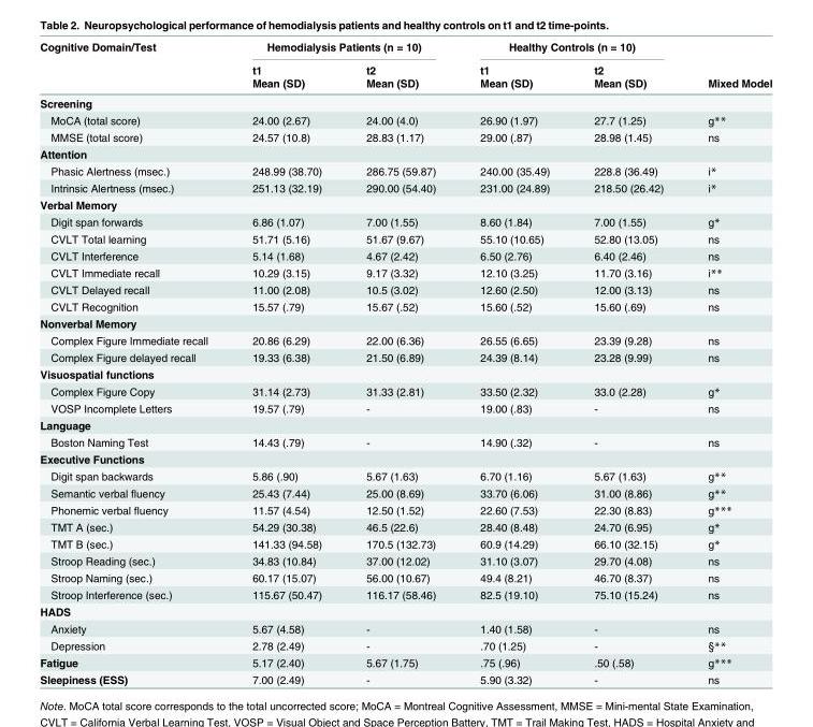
<table><thead><tr><td rowspan="3">Cognitive Domain/Test</td><td colspan="2">Hemodialysis Patients (n = 10)</td><td colspan="2">Healthy Controls (n = 10)</td><td rowspan="3">Mixed Model</td></tr><tr><td rowspan="2">t1 Mean (SD)</td><td rowspan="2">t2 Mean (SD)</td><td rowspan="2">t1 Mean (SD)</td><td rowspan="2">t2 Mean (SD)</td></tr><tr></tr></thead><tbody><tr><td colspan="6">Screening</td></tr><tr><td>MoCA (total score)</td><td>24.00 (2.67)</td><td>24.00 (4.0)</td><td>26.90 (1.97)</td><td>27.7 (1.25)</td><td>g**</td></tr><tr><td>MMSE (total score)</td><td>24.57 (10.8)</td><td>28.83 (1.17)</td><td>29.00 (.87)</td><td>28.98 (1.45)</td><td>ns</td></tr><tr><td colspan="6">Attention</td></tr><tr><td>Phasic Alertness (msec.)</td><td>248.99 (38.70)</td><td>286.75 (59.87)</td><td>240.00 (35.49)</td><td>228.8 (36.49)</td><td>i*</td></tr><tr><td>Intrinsic Alertness (msec.)</td><td>251.13 (32.19)</td><td>290.00 (54.40)</td><td>231.00 (24.89)</td><td>218.50 (26.42)</td><td>i*</td></tr><tr><td colspan="6">Verbal Memory</td></tr><tr><td>Digit span forwards</td><td>6.86 (1.07)</td><td>7.00 (1.55)</td><td>8.60 (1.84)</td><td>7.00 (1.55)</td><td>g*</td></tr><tr><td>CVLT Total learning</td><td>51.71 (5.16)</td><td>51.67 (9.67)</td><td>55.10 (10.65)</td><td>52.80 (13.05)</td><td>ns</td></tr><tr><td>CVLT Interference</td><td>5.14 (1.68)</td><td>4.67 (2.42)</td><td>6.50 (2.76)</td><td>6.40 (2.46)</td><td>ns</td></tr><tr><td>CVLT Immediate recall</td><td>10.29 (3.15)</td><td>9.17 (3.32)</td><td>12.10 (3.25)</td><td>11.70 (3.16)</td><td>i**</td></tr><tr><td>CVLT Delayed recall</td><td>11.00 (2.08)</td><td>10.5 (3.02)</td><td>12.60 (2.50)</td><td>12.00 (3.13)</td><td>ns</td></tr><tr><td>CVLT Recognition</td><td>15.57 (.79)</td><td>15.67 (.52)</td><td>15.60 (.52)</td><td>15.60 (.69)</td><td>ns</td></tr><tr><td colspan="6">Nonverbal Memory</td></tr><tr><td>Complex Figure Immediate recall</td><td>20.86 (6.29)</td><td>22.00 (6.36)</td><td>26.55 (6.65)</td><td>23.39 (9.28)</td><td>ns</td></tr><tr><td>Complex Figure delayed recall</td><td>19.33 (6.38)</td><td>21.50 (6.89)</td><td>24.39 (8.14)</td><td>23.28 (9.99)</td><td>ns</td></tr><tr><td colspan="6">Visuospatial functions</td></tr><tr><td>Complex Figure Copy</td><td>31.14 (2.73)</td><td>31.33 (2.81)</td><td>33.50 (2.32)</td><td>33.0 (2.28)</td><td>g*</td></tr><tr><td>VOSP Incomplete Letters</td><td>19.57 (.79)</td><td>-</td><td>19.00 (.83)</td><td>-</td><td>ns</td></tr><tr><td colspan="6">Language</td></tr><tr><td>Boston Naming Test</td><td>14.43 (.79)</td><td>-</td><td>14.90 (.32)</td><td>-</td><td>ns</td></tr><tr><td colspan="6">Executive Functions</td></tr><tr><td>Digit span backwards</td><td>5.86 (.90)</td><td>5.67 (1.63)</td><td>6.70 (1.16)</td><td>5.67 (1.63)</td><td>g**</td></tr><tr><td>Semantic verbal fluency</td><td>25.43 (7.44)</td><td>25.00 (8.69)</td><td>33.70 (6.06)</td><td>31.00 (8.86)</td><td>g**</td></tr><tr><td>Phonemic verbal fluency</td><td>11.57 (4.54)</td><td>12.50 (1.52)</td><td>22.60 (7.53)</td><td>22.30 (8.83)</td><td>g***</td></tr><tr><td>TMT A (sec.)</td><td>54.29 (30.38)</td><td>46.5 (22.6)</td><td>28.40 (8.48)</td><td>24.70 (6.95)</td><td>g*</td></tr><tr><td>TMT B (sec.)</td><td>141.33 (94.58)</td><td>170.5 (132.73)</td><td>60.9 (14.29)</td><td>66.10 (32.15)</td><td>g*</td></tr><tr><td>Stroop Reading (sec.)</td><td>34.83 (10.84)</td><td>37.00 (12.02)</td><td>31.10 (3.07)</td><td>29.70 (4.08)</td><td>ns</td></tr><tr><td>Stroop Naming (sec.)</td><td>60.17 (15.07)</td><td>56.00 (10.67)</td><td>49.4 (8.21)</td><td>46.70 (8.37)</td><td>ns</td></tr><tr><td>Stroop Interference (sec.)</td><td>115.67 (50.47)</td><td>116.17 (58.46)</td><td>82.5 (19.10)</td><td>75.10 (15.24)</td><td>ns</td></tr><tr><td colspan="6">HADS</td></tr><tr><td>Anxiety</td><td>5.67 (4.58)</td><td>-</td><td>1.40 (1.58)</td><td>-</td><td>ns</td></tr><tr><td>Depression</td><td>2.78 (2.49)</td><td>-</td><td>.70 (1.25)</td><td>-</td><td>§**</td></tr><tr><td>Fatigue</td><td>5.17 (2.40)</td><td>5.67 (1.75)</td><td>.75 (.96)</td><td>.50 (.58)</td><td>g***</td></tr><tr><td>Sleepiness (ESS)</td><td>7.00 (2.49)</td><td>-</td><td>5.90 (3.32)</td><td>-</td><td>ns</td></tr></tbody></table>